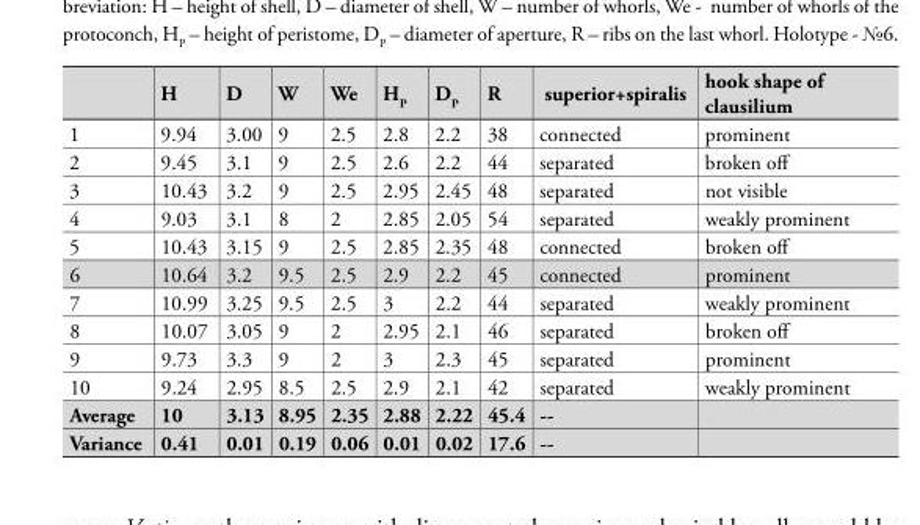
<table><thead><tr><td></td><td>H</td><td>D</td><td>W</td><td>We</td><td><sub>H</sub>P</td><td><sub>D</sub>P</td><td>R</td><td>superior+spiralis</td><td>hook shape of clausilium</td></tr></thead><tbody><tr><td>1</td><td>9.94</td><td>3.00</td><td>9</td><td>2.5</td><td>2.8</td><td>2.2</td><td>38</td><td>connected</td><td>prominent</td></tr><tr><td>2</td><td>9.45</td><td>3.1</td><td>9</td><td>2.5</td><td>2.6</td><td>2.2</td><td>44</td><td>separated</td><td>broken off</td></tr><tr><td>3</td><td>10.43</td><td>3.2</td><td>9</td><td>2.5</td><td>2.95</td><td>2.45</td><td>48</td><td>separated</td><td>not visible</td></tr><tr><td>4</td><td>9.03</td><td>3.1</td><td>8</td><td>2</td><td>2.85</td><td>2.05</td><td>54</td><td>separated</td><td>weakly prominent</td></tr><tr><td>5</td><td>10.43</td><td>3.15</td><td>9</td><td>2.5</td><td>2.85</td><td>2.35</td><td>48</td><td>connected</td><td>broken off</td></tr><tr><td>6</td><td>10.64</td><td>3.2</td><td>9.5</td><td>2.5</td><td>2.9</td><td>2.2</td><td>45</td><td>connected</td><td>prominent</td></tr><tr><td>7</td><td>10.99</td><td>3.25</td><td>9.5</td><td>2.5</td><td>3</td><td>2.2</td><td>44</td><td>separated</td><td>weakly prominent</td></tr><tr><td>8</td><td>10.07</td><td>3.05</td><td>9</td><td>2</td><td>2.95</td><td>2.1</td><td>46</td><td>separated</td><td>broken off</td></tr><tr><td>9</td><td>9.73</td><td>3.3</td><td>9</td><td>2</td><td>3</td><td>2.3</td><td>45</td><td>separated</td><td>prominent</td></tr><tr><td>10</td><td>9.24</td><td>2.95</td><td>8.5</td><td>2.5</td><td>2.9</td><td>2.1</td><td>42</td><td>separated</td><td>weakly prominent</td></tr><tr><td>Average</td><td>10</td><td>3.13</td><td>8.95</td><td>2.35</td><td>2.88</td><td>2.22</td><td>45.4</td><td>--</td><td></td></tr><tr><td>Variance</td><td>0.41</td><td>0.01</td><td>0.19</td><td>0.06</td><td>0.01</td><td>0.02</td><td>17.6</td><td>--</td><td></td></tr></tbody></table>